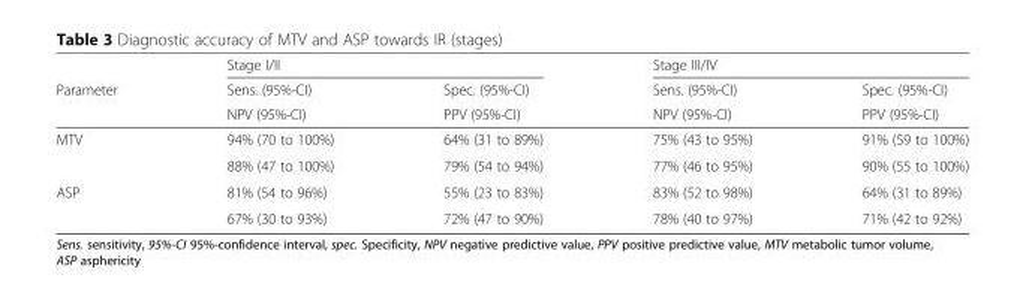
<table><thead><tr><td rowspan="3">Parameter</td><td colspan="2">Stage I/II</td><td colspan="2">Stage III/IV</td></tr><tr><td rowspan="2">Sens. (95%-CI) NPV (95%-CI)</td><td rowspan="2">Spec. (95%-CI) PPV (95%-CI)</td><td rowspan="2">Sens. (95%-CI) NPV (95%-CI)</td><td rowspan="2">Spec. (95%-CI) PPV (95%-CI)</td></tr><tr></tr></thead><tbody><tr><td rowspan="2">MTV</td><td>94% (70 to 100%)</td><td>64% (31 to 89%)</td><td>75% (43 to 95%)</td><td>91% (59 to 100%)</td></tr><tr><td>88% (47 to 100%)</td><td>79% (54 to 94%)</td><td>77% (46 to 95%)</td><td>90% (55 to 100%)</td></tr><tr><td rowspan="2">ASP</td><td>81% (54 to 96%)</td><td>55% (23 to 83%)</td><td>83% (52 to 98%)</td><td>64% (31 to 89%)</td></tr><tr><td>67% (30 to 93%)</td><td>72% (47 to 90%)</td><td>78% (40 to 97%)</td><td>71% (42 to 92%)</td></tr></tbody></table>